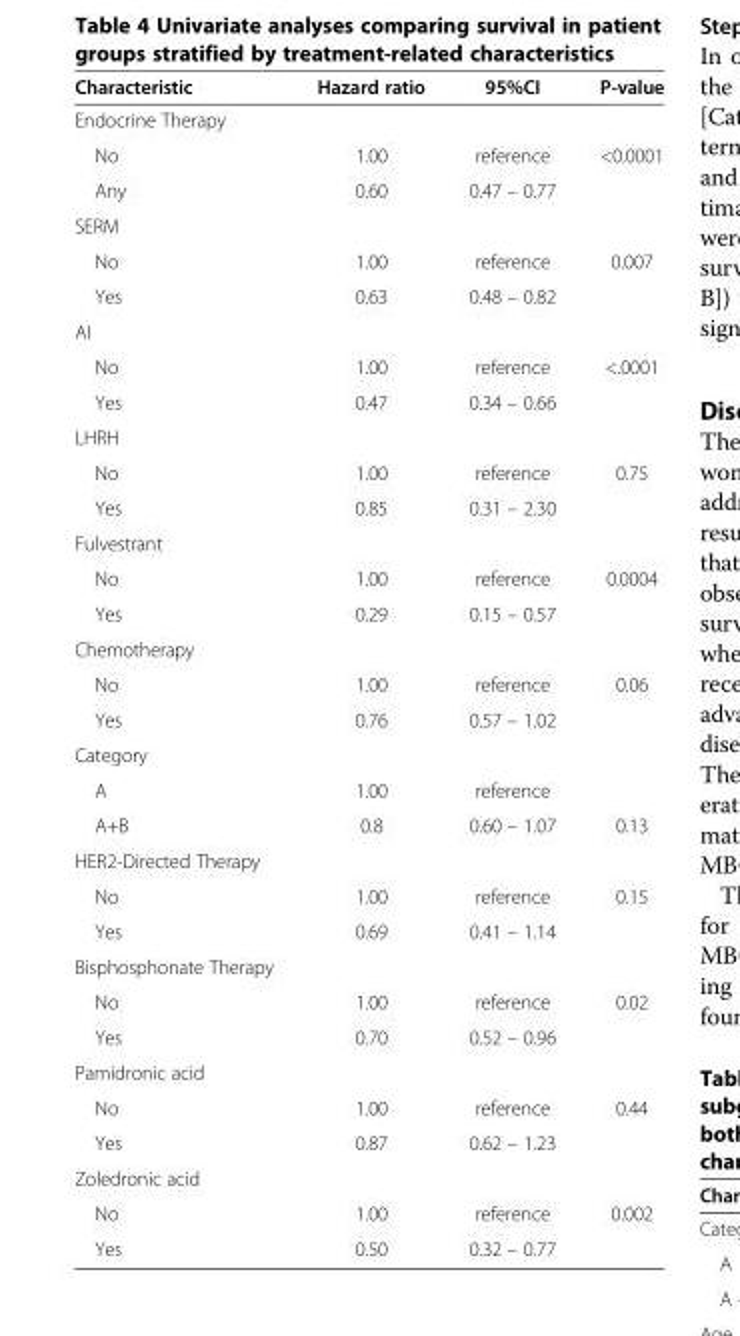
<table><thead><tr><td>Characteristic</td><td>Hazard ratio</td><td>95%CI</td><td>P-value</td></tr></thead><tbody><tr><td colspan="4">Endocrine Therapy</td></tr><tr><td>No</td><td>1.00</td><td>reference</td><td>&lt;0.0001</td></tr><tr><td>Any</td><td>0.60</td><td>0.47 – 0.77</td><td></td></tr><tr><td colspan="4">SERM</td></tr><tr><td>No</td><td>1.00</td><td>reference</td><td>0.007</td></tr><tr><td>Yes</td><td>0.63</td><td>0.48 – 0.82</td><td></td></tr><tr><td colspan="4">AI</td></tr><tr><td>No</td><td>1.00</td><td>reference</td><td>&lt;.0001</td></tr><tr><td>Yes</td><td>0.47</td><td>0.34 – 0.66</td><td></td></tr><tr><td colspan="4">LHRH</td></tr><tr><td>No</td><td>1.00</td><td>reference</td><td>0.75</td></tr><tr><td>Yes</td><td>0.85</td><td>0.31 – 2.30</td><td></td></tr><tr><td colspan="4">Fulvestrant</td></tr><tr><td>No</td><td>1.00</td><td>reference</td><td>0.0004</td></tr><tr><td>Yes</td><td>0.29</td><td>0.15 – 0.57</td><td></td></tr><tr><td colspan="4">Chemotherapy</td></tr><tr><td>No</td><td>1.00</td><td>reference</td><td>0.06</td></tr><tr><td>Yes</td><td>0.76</td><td>0.57 – 1.02</td><td></td></tr><tr><td colspan="4">Category</td></tr><tr><td>A</td><td>1.00</td><td>reference</td><td></td></tr><tr><td>A+B</td><td>0.8</td><td>0.60 – 1.07</td><td>0.13</td></tr><tr><td colspan="4">HER2-Directed Therapy</td></tr><tr><td>No</td><td>1.00</td><td>reference</td><td>0.15</td></tr><tr><td>Yes</td><td>0.69</td><td>0.41 – 1.14</td><td></td></tr><tr><td colspan="4">Bisphosphonate Therapy</td></tr><tr><td>No</td><td>1.00</td><td>reference</td><td>0.02</td></tr><tr><td>Yes</td><td>0.70</td><td>0.52 – 0.96</td><td></td></tr><tr><td colspan="4">Pamidronic acid</td></tr><tr><td>No</td><td>1.00</td><td>reference</td><td>0.44</td></tr><tr><td>Yes</td><td>0.87</td><td>0.62 – 1.23</td><td></td></tr><tr><td colspan="4">Zoledronic acid</td></tr><tr><td>No</td><td>1.00</td><td>reference</td><td>0.002</td></tr><tr><td>Yes</td><td>0.50</td><td>0.32 – 0.77</td><td></td></tr></tbody></table>